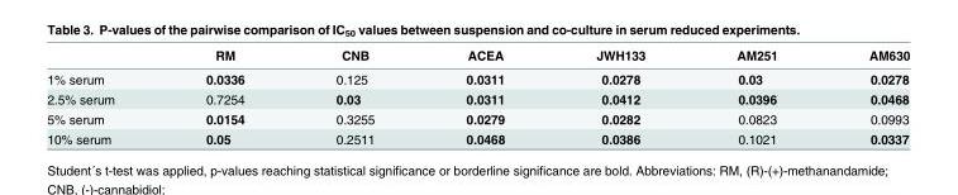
<table><thead><tr><td></td><td>RM</td><td>CNB</td><td>ACEA</td><td>JWH133</td><td>AM251</td><td>AM630</td></tr></thead><tbody><tr><td>1% serum</td><td>0.0336</td><td>0.125</td><td>0.0311</td><td>0.0278</td><td>0.03</td><td>0.0278</td></tr><tr><td>2.5% serum</td><td>0.7254</td><td>0.03</td><td>0.0311</td><td>0.0412</td><td>0.0396</td><td>0.0468</td></tr><tr><td>5% serum</td><td>0.0154</td><td>0.3255</td><td>0.0279</td><td>0.0282</td><td>0.0823</td><td>0.0993</td></tr><tr><td>10% serum</td><td>0.05</td><td>0.2511</td><td>0.0468</td><td>0.0386</td><td>0.1021</td><td>0.0337</td></tr></tbody></table>